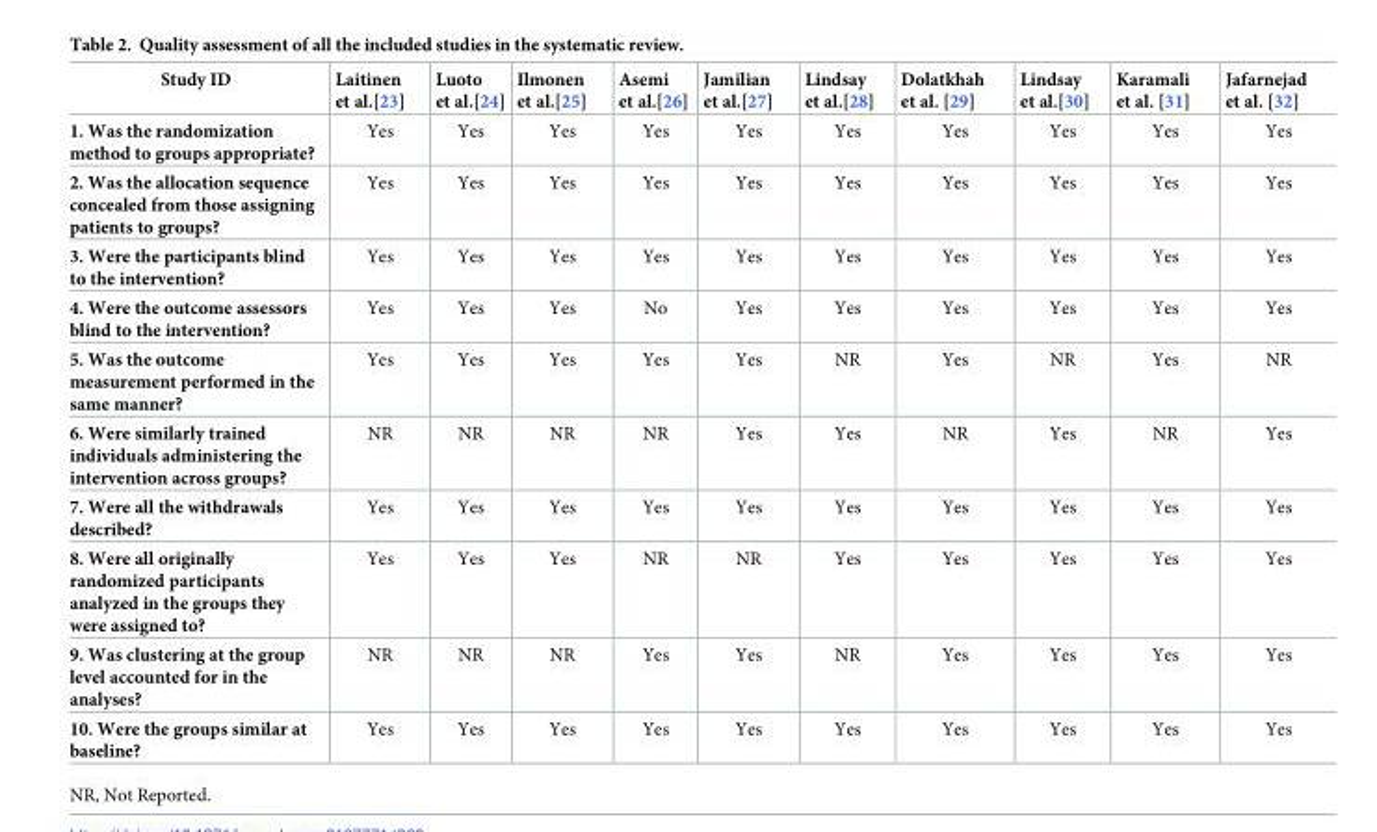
<table><thead><tr><td>Study ID</td><td>Laitinen et al.[23]</td><td>Luoto et al.[24]</td><td>Ilmonen et al.[25]</td><td>Asemi et al.[26]</td><td>Jamilian et al.[27]</td><td>Lindsay et al.[28]</td><td>Dolatkhah et al. [29]</td><td>Lindsay et al.[30]</td><td>Karamali et al. [31]</td><td>Jafarnejad et al. [32]</td></tr></thead><tbody><tr><td>1. Was the randomization method to groups appropriate?</td><td>Yes</td><td>Yes</td><td>Yes</td><td>Yes</td><td>Yes</td><td>Yes</td><td>Yes</td><td>Yes</td><td>Yes</td><td>Yes</td></tr><tr><td>2. Was the allocation sequence concealed from those assigning patients to groups?</td><td>Yes</td><td>Yes</td><td>Yes</td><td>Yes</td><td>Yes</td><td>Yes</td><td>Yes</td><td>Yes</td><td>Yes</td><td>Yes</td></tr><tr><td>3. Were the participants blind to the intervention?</td><td>Yes</td><td>Yes</td><td>Yes</td><td>Yes</td><td>Yes</td><td>Yes</td><td>Yes</td><td>Yes</td><td>Yes</td><td>Yes</td></tr><tr><td>4. Were the outcome assessors blind to the intervention?</td><td>Yes</td><td>Yes</td><td>Yes</td><td>No</td><td>Yes</td><td>Yes</td><td>Yes</td><td>Yes</td><td>Yes</td><td>Yes</td></tr><tr><td>5. Was the outcome measurement performed in the same manner?</td><td>Yes</td><td>Yes</td><td>Yes</td><td>Yes</td><td>Yes</td><td>NR</td><td>Yes</td><td>NR</td><td>Yes</td><td>NR</td></tr><tr><td>6. Were similarly trained individuals administering the intervention across groups?</td><td>NR</td><td>NR</td><td>NR</td><td>NR</td><td>Yes</td><td>Yes</td><td>NR</td><td>Yes</td><td>NR</td><td>Yes</td></tr><tr><td>7. Were all the withdrawals described?</td><td>Yes</td><td>Yes</td><td>Yes</td><td>Yes</td><td>Yes</td><td>Yes</td><td>Yes</td><td>Yes</td><td>Yes</td><td>Yes</td></tr><tr><td>8. Were all originally randomized participants analyzed in the groups they were assigned to?</td><td>Yes</td><td>Yes</td><td>Yes</td><td>NR</td><td>NR</td><td>Yes</td><td>Yes</td><td>Yes</td><td>Yes</td><td>Yes</td></tr><tr><td>9. Was clustering at the group level accounted for in the analyses?</td><td>NR</td><td>NR</td><td>NR</td><td>Yes</td><td>Yes</td><td>NR</td><td>Yes</td><td>Yes</td><td>Yes</td><td>Yes</td></tr><tr><td>10. Were the groups similar at baseline?</td><td>Yes</td><td>Yes</td><td>Yes</td><td>Yes</td><td>Yes</td><td>Yes</td><td>Yes</td><td>Yes</td><td>Yes</td><td>Yes</td></tr></tbody></table>